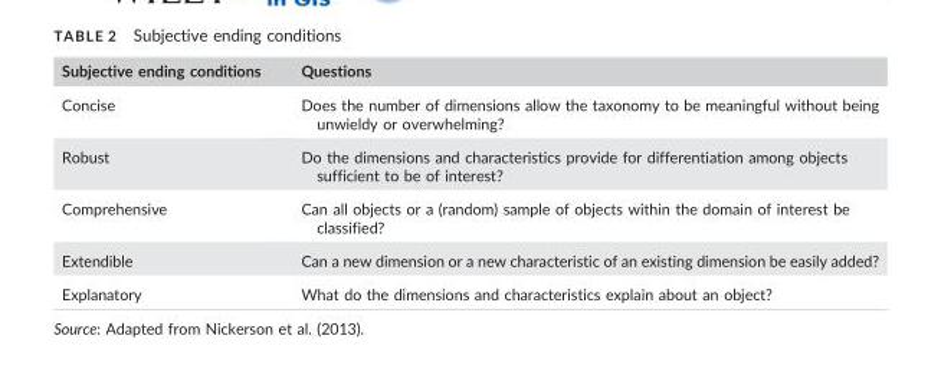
<table><thead><tr><td>Subjective ending conditions</td><td>Questions</td></tr></thead><tbody><tr><td>Concise</td><td>Does the number of dimensions allow the taxonomy to be meaningful without being unwieldy or overwhelming?</td></tr><tr><td>Robust</td><td>Do the dimensions and characteristics provide for differentiation among objects sufficient to be of interest?</td></tr><tr><td>Comprehensive</td><td>Can all objects or a (random) sample of objects within the domain of interest be classified?</td></tr><tr><td>Extendible</td><td>Can a new dimension or a new characteristic of an existing dimension be easily added?</td></tr><tr><td>Explanatory</td><td>What do the dimensions and characteristics explain about an object?</td></tr></tbody></table>